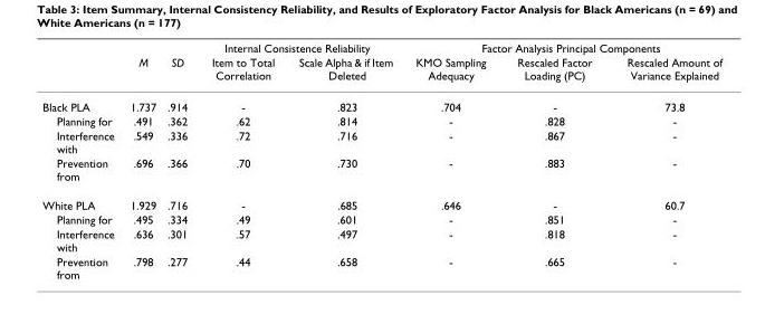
<table><thead><tr><td rowspan="2"></td><td rowspan="2">M</td><td rowspan="2">SD</td><td colspan="2">Internal Consistence Reliability</td><td colspan="3">Factor Analysis Principal Components</td></tr><tr><td>Item to Total Correlation</td><td>Scale Alpha &amp; if Item Deleted</td><td>KMO Sampling Adequacy</td><td>Rescaled Factor Loading (PC)</td><td>Rescaled Amount of Variance Explained</td></tr></thead><tbody><tr><td>Black PLA</td><td>1.737</td><td>.914</td><td>-</td><td>.823</td><td>.704</td><td>-</td><td>73.8</td></tr><tr><td>Planning for</td><td>.491</td><td>.362</td><td>.62</td><td>.814</td><td>-</td><td>.828</td><td>-</td></tr><tr><td>Interference with</td><td>.549</td><td>.336</td><td>.72</td><td>.716</td><td>-</td><td>.867</td><td>-</td></tr><tr><td>Prevention from</td><td>.696</td><td>.366</td><td>.70</td><td>.730</td><td>-</td><td>.883</td><td>-</td></tr><tr><td>White PLA</td><td>1.929</td><td>.716</td><td>-</td><td>.685</td><td>.646</td><td>-</td><td>60.7</td></tr><tr><td>Planning for</td><td>.495</td><td>.334</td><td>.49</td><td>.601</td><td>-</td><td>.851</td><td>-</td></tr><tr><td>Interference with</td><td>.636</td><td>.301</td><td>.57</td><td>.497</td><td>-</td><td>.818</td><td>-</td></tr><tr><td>Prevention from</td><td>.798</td><td>.277</td><td>.44</td><td>.658</td><td>-</td><td>.665</td><td>-</td></tr></tbody></table>